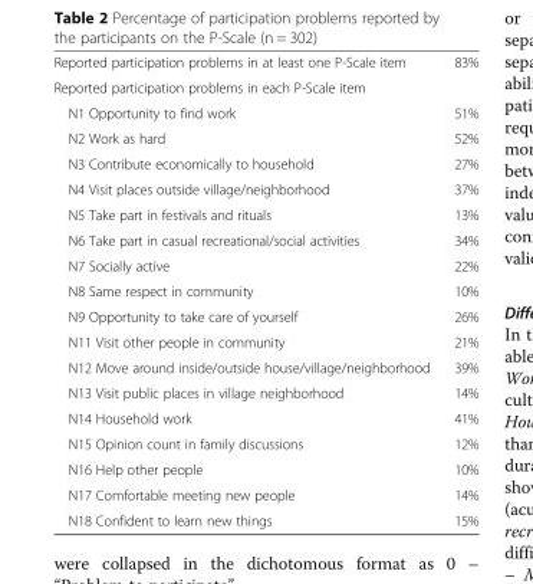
<table><tbody><tr><td>Reported participation problems in at least one P-Scale item</td><td>83%</td></tr><tr><td colspan="2">Reported participation problems in each P-Scale item</td></tr><tr><td>N1 Opportunity to find work</td><td>51%</td></tr><tr><td>N2 Work as hard</td><td>52%</td></tr><tr><td>N3 Contribute economically to household</td><td>27%</td></tr><tr><td>N4 Visit places outside village/neighborhood</td><td>37%</td></tr><tr><td>N5 Take part in festivals and rituals</td><td>13%</td></tr><tr><td>N6 Take part in casual recreational/social activities</td><td>34%</td></tr><tr><td>N7 Socially active</td><td>22%</td></tr><tr><td>N8 Same respect in community</td><td>10%</td></tr><tr><td>N9 Opportunity to take care of yourself</td><td>26%</td></tr><tr><td>N11 Visit other people in community</td><td>21%</td></tr><tr><td>N12 Move around inside/outside house/village/neighborhood</td><td>39%</td></tr><tr><td>N13 Visit public places in village neighborhood</td><td>14%</td></tr><tr><td>N14 Household work</td><td>41%</td></tr><tr><td>N15 Opinion count in family discussions</td><td>12%</td></tr><tr><td>N16 Help other people</td><td>10%</td></tr><tr><td>N17 Comfortable meeting new people</td><td>14%</td></tr><tr><td>N18 Confident to learn new things</td><td>15%</td></tr></tbody></table>